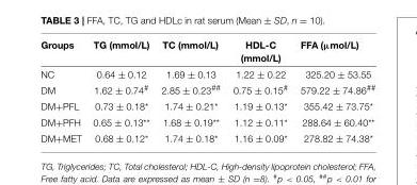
<table><thead><tr><td>Groups</td><td>TG (mmol/L)</td><td>TC (mmol/L)</td><td>HDL-C (mmol/L)</td><td>FFA (µmol/L)</td></tr></thead><tbody><tr><td>NC</td><td>0.64 ± 0.12</td><td>1.69 ± 0.13</td><td>1.22 ± 0.22</td><td>325.20 ± 53.55</td></tr><tr><td>DM</td><td>1.62 ± 0.74<sup>#</sup></td><td>2.85 ± 0.23<sup>##</sup></td><td>0.75 ± 0.15<sup>#</sup></td><td>579.22 ± 74.86<sup>##</sup></td></tr><tr><td>DM+PFL</td><td>0.73 ± 0.18*</td><td>1.74 ± 0.21*</td><td>1.19 ± 0.13*</td><td>355.42 ± 73.75*</td></tr><tr><td>DM+PFH</td><td>0.65 ± 0.13**</td><td>1.68 ± 0.19**</td><td>1.12 ± 0.11*</td><td>288.64 ± 60.40**</td></tr><tr><td>DM+MET</td><td>0.68 ± 0.12*</td><td>1.74 ± 0.18*</td><td>1.16 ± 0.09*</td><td>278.82 ± 74.38*</td></tr></tbody></table>